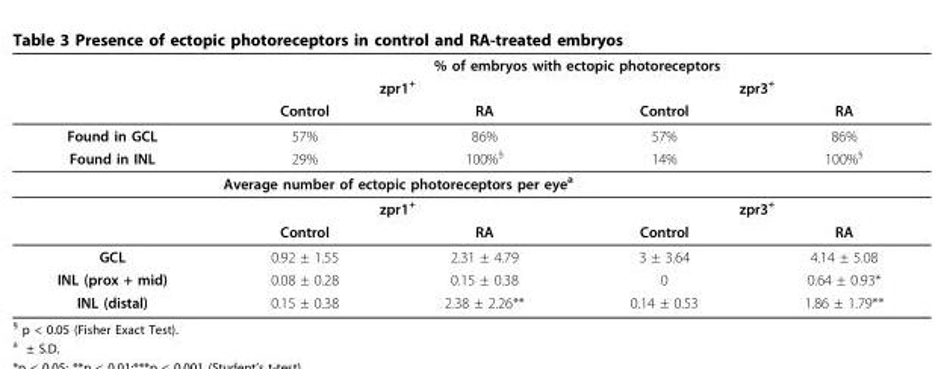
<table><thead><tr><td rowspan="3"></td><td colspan="4">% of embryos with ectopic photoreceptors</td></tr><tr><td colspan="2">zpr1<sup>+</sup></td><td colspan="2">zpr3<sup>+</sup></td></tr><tr><td>Control</td><td>RA</td><td>Control</td><td>RA</td></tr></thead><tbody><tr><td>Found in GCL</td><td>57%</td><td>86%</td><td>57%</td><td>86%</td></tr><tr><td rowspan="4">Found in INL</td><td>29%</td><td>100%<sup>§</sup></td><td>14%</td><td>100%<sup>§</sup></td></tr><tr><td colspan="4">Average number of ectopic photoreceptors per eye<sup>a</sup></td></tr><tr><td colspan="2">zpr1<sup>+</sup></td><td colspan="2">zpr3<sup>+</sup></td></tr><tr><td>Control</td><td>RA</td><td>Control</td><td>RA</td></tr><tr><td>GCL</td><td>0.92 ± 1.55</td><td>2.31 ± 4.79</td><td>3 ± 3.64</td><td>4.14 ± 5.08</td></tr><tr><td>INL (prox + mid)</td><td>0.08 ± 0.28</td><td>0.15 ± 0.38</td><td>0</td><td>0.64 ± 0.93*</td></tr><tr><td>INL (distal)</td><td>0.15 ± 0.38</td><td>2.38 ± 2.26**</td><td>0.14 ± 0.53</td><td>1.86 ± 1.79**</td></tr></tbody></table>